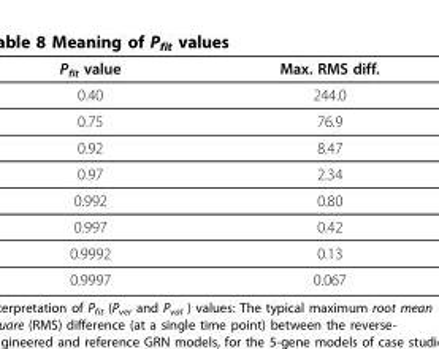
<table><thead><tr><td>P<sub>fit</sub> value</td><td>Max. RMS diff.</td></tr></thead><tbody><tr><td>0.40</td><td>244.0</td></tr><tr><td>0.75</td><td>76.9</td></tr><tr><td>0.92</td><td>8.47</td></tr><tr><td>0.97</td><td>2.34</td></tr><tr><td>0.992</td><td>0.80</td></tr><tr><td>0.997</td><td>0.42</td></tr><tr><td>0.9992</td><td>0.13</td></tr><tr><td>0.9997</td><td>0.067</td></tr></tbody></table>